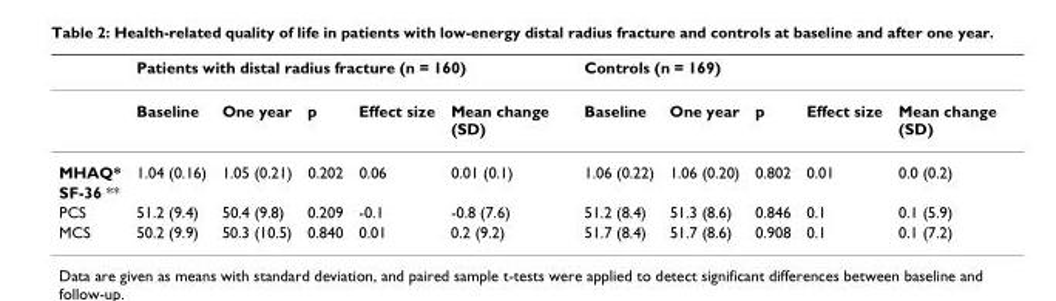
<table><thead><tr><td rowspan="2"></td><td colspan="5">Patients with distal radius fracture (n = 160)</td><td colspan="5">Controls (n = 169)</td></tr><tr><td>Baseline</td><td>One year</td><td>p</td><td>Effect size</td><td>Mean change (SD)</td><td>Baseline</td><td>One year</td><td>p</td><td>Effect size</td><td>Mean change (SD)</td></tr></thead><tbody><tr><td>MHAQ*</td><td>1.04 (0.16)</td><td>1.05 (0.21)</td><td>0.202</td><td>0.06</td><td>0.01 (0.1)</td><td>1.06 (0.22)</td><td>1.06 (0.20)</td><td>0.802</td><td>0.01</td><td>0.0 (0.2)</td></tr><tr><td colspan="11">SF-36 **</td></tr><tr><td>PCS</td><td>51.2 (9.4)</td><td>50.4 (9.8)</td><td>0.209</td><td>-0.1</td><td>-0.8 (7.6)</td><td>51.2 (8.4)</td><td>51.3 (8.6)</td><td>0.846</td><td>0.1</td><td>0.1 (5.9)</td></tr><tr><td>MCS</td><td>50.2 (9.9)</td><td>50.3 (10.5)</td><td>0.840</td><td>0.01</td><td>0.2 (9.2)</td><td>51.7 (8.4)</td><td>51.7 (8.6)</td><td>0.908</td><td>0.1</td><td>0.1 (7.2)</td></tr></tbody></table>